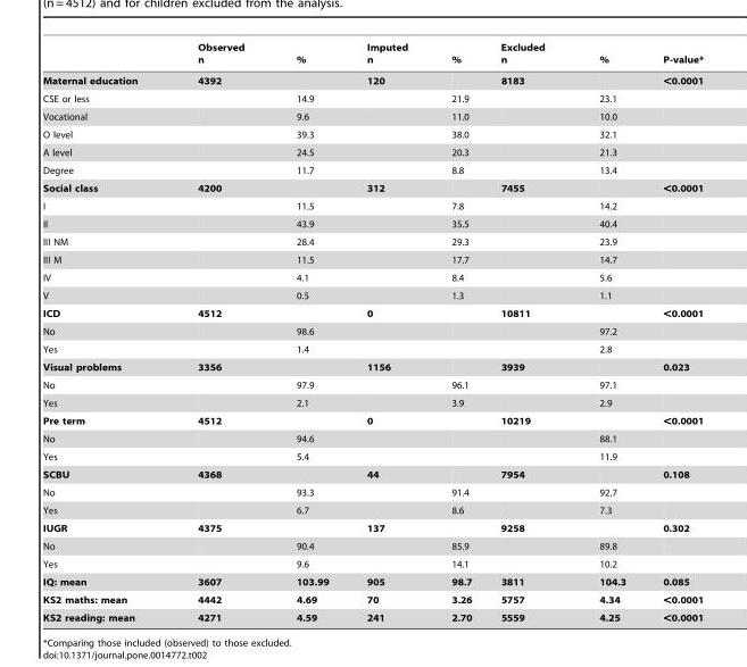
<table><thead><tr><td></td><td>Observed n</td><td>%</td><td>Imputed n</td><td>%</td><td>Excluded n</td><td>%</td><td>P-value*</td></tr></thead><tbody><tr><td>Maternal education</td><td>4392</td><td></td><td>120</td><td></td><td>8183</td><td></td><td>&lt;0.0001</td></tr><tr><td>CSE or less</td><td></td><td>14.9</td><td></td><td>21.9</td><td></td><td>23.1</td><td></td></tr><tr><td>Vocational</td><td></td><td>9.6</td><td></td><td>11.0</td><td></td><td>10.0</td><td></td></tr><tr><td>O level</td><td></td><td>39.3</td><td></td><td>38.0</td><td></td><td>32.1</td><td></td></tr><tr><td>A level</td><td></td><td>24.5</td><td></td><td>20.3</td><td></td><td>21.3</td><td></td></tr><tr><td>Degree</td><td></td><td>11.7</td><td></td><td>8.8</td><td></td><td>13.4</td><td></td></tr><tr><td>Social class</td><td>4200</td><td></td><td>312</td><td></td><td>7455</td><td></td><td>&lt;0.0001</td></tr><tr><td>I</td><td></td><td>11.5</td><td></td><td>7.8</td><td></td><td>14.2</td><td></td></tr><tr><td>II</td><td></td><td>43.9</td><td></td><td>35.5</td><td></td><td>40.4</td><td></td></tr><tr><td>III NM</td><td></td><td>28.4</td><td></td><td>29.3</td><td></td><td>23.9</td><td></td></tr><tr><td>III M</td><td></td><td>11.5</td><td></td><td>17.7</td><td></td><td>14.7</td><td></td></tr><tr><td>IV</td><td></td><td>4.1</td><td></td><td>8.4</td><td></td><td>5.6</td><td></td></tr><tr><td>V</td><td></td><td>0.5</td><td></td><td>1.3</td><td></td><td>1.1</td><td></td></tr><tr><td>ICD</td><td>4512</td><td></td><td>0</td><td></td><td>10811</td><td></td><td>&lt;0.0001</td></tr><tr><td>No</td><td></td><td>98.6</td><td></td><td></td><td></td><td>97.2</td><td></td></tr><tr><td>Yes</td><td></td><td>1.4</td><td></td><td></td><td></td><td>2.8</td><td></td></tr><tr><td>Visual problems</td><td>3356</td><td></td><td>1156</td><td></td><td>3939</td><td></td><td>0.023</td></tr><tr><td>No</td><td></td><td>97.9</td><td></td><td>96.1</td><td></td><td>97.1</td><td></td></tr><tr><td>Yes</td><td></td><td>2.1</td><td></td><td>3.9</td><td></td><td>2.9</td><td></td></tr><tr><td>Pre term</td><td>4512</td><td></td><td>0</td><td></td><td>10219</td><td></td><td>&lt;0.0001</td></tr><tr><td>No</td><td></td><td>94.6</td><td></td><td></td><td></td><td>88.1</td><td></td></tr><tr><td>Yes</td><td></td><td>5.4</td><td></td><td></td><td></td><td>11.9</td><td></td></tr><tr><td>SCBU</td><td>4368</td><td></td><td>44</td><td></td><td>7954</td><td></td><td>0.108</td></tr><tr><td>No</td><td></td><td>93.3</td><td></td><td>91.4</td><td></td><td>92.7</td><td></td></tr><tr><td>Yes</td><td></td><td>6.7</td><td></td><td>8.6</td><td></td><td>7.3</td><td></td></tr><tr><td>IUGR</td><td>4375</td><td></td><td>137</td><td></td><td>9258</td><td></td><td>0.302</td></tr><tr><td>No</td><td></td><td>90.4</td><td></td><td>85.9</td><td></td><td>89.8</td><td></td></tr><tr><td>Yes</td><td></td><td>9.6</td><td></td><td>14.1</td><td></td><td>10.2</td><td></td></tr><tr><td>IQ: mean</td><td>3607</td><td>103.99</td><td>905</td><td>98.7</td><td>3811</td><td>104.3</td><td>0.085</td></tr><tr><td>KS2 maths: mean</td><td>4442</td><td>4.69</td><td>70</td><td>3.26</td><td>5757</td><td>4.34</td><td>&lt;0.0001</td></tr><tr><td>KS2 reading: mean</td><td>4271</td><td>4.59</td><td>241</td><td>2.70</td><td>5559</td><td>4.25</td><td>&lt;0.0001</td></tr></tbody></table>